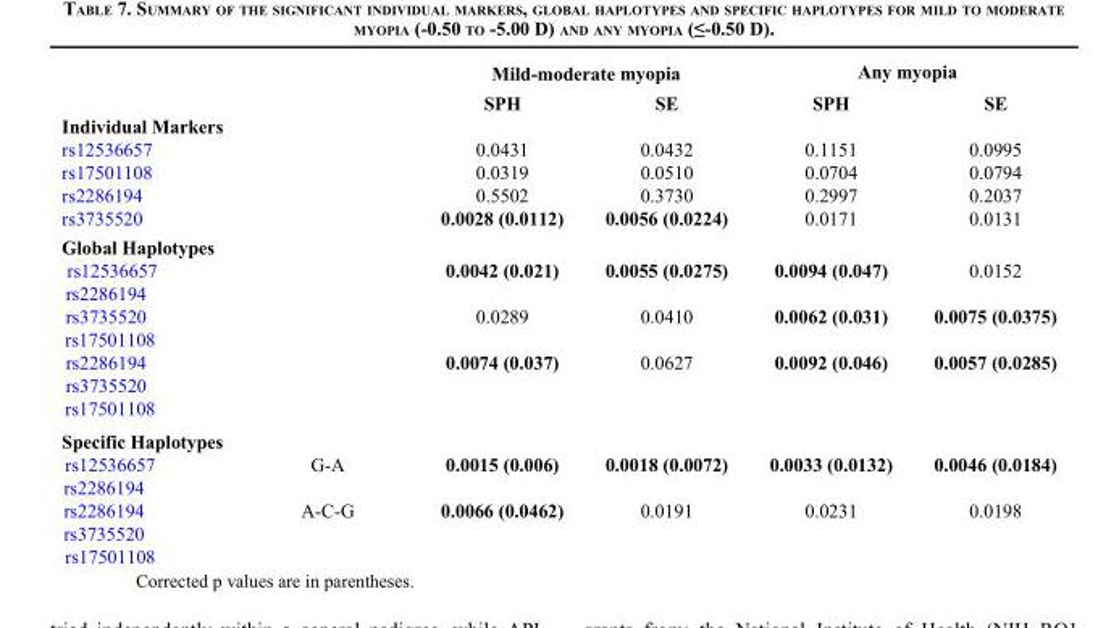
<table><thead><tr><td rowspan="2"></td><td rowspan="2"></td><td colspan="2">Mild-moderate myopia</td><td colspan="2">Any myopia</td></tr><tr><td>SPH</td><td>SE</td><td>SPH</td><td>SE</td></tr></thead><tbody><tr><td colspan="6">Individual Markers</td></tr><tr><td>rs12536657</td><td></td><td>0.0431</td><td>0.0432</td><td>0.1151</td><td>0.0995</td></tr><tr><td>rs17501108</td><td></td><td>0.0319</td><td>0.0510</td><td>0.0704</td><td>0.0794</td></tr><tr><td>rs2286194</td><td></td><td>0.5502</td><td>0.3730</td><td>0.2997</td><td>0.2037</td></tr><tr><td>rs3735520</td><td></td><td>0.0028 (0.0112)</td><td>0.0056 (0.0224)</td><td>0.0171</td><td>0.0131</td></tr><tr><td colspan="6">Global Haplotypes</td></tr><tr><td>rs12536657 rs2286194</td><td></td><td>0.0042 (0.021)</td><td>0.0055 (0.0275)</td><td>0.0094 (0.047)</td><td>0.0152</td></tr><tr><td>rs3735520 rs17501108</td><td></td><td>0.0289</td><td>0.0410</td><td>0.0062 (0.031)</td><td>0.0075 (0.0375)</td></tr><tr><td>rs2286194 rs3735520 rs17501108</td><td></td><td>0.0074 (0.037)</td><td>0.0627</td><td>0.0092 (0.046)</td><td>0.0057 (0.0285)</td></tr><tr><td colspan="6">Specific Haplotypes</td></tr><tr><td>rs12536657 rs2286194</td><td>G-A</td><td>0.0015 (0.006)</td><td>0.0018 (0.0072)</td><td>0.0033 (0.0132)</td><td>0.0046 (0.0184)</td></tr><tr><td>rs2286194 rs3735520 rs17501108</td><td>A-C-G</td><td>0.0066 (0.0462)</td><td>0.0191</td><td>0.0231</td><td>0.0198</td></tr></tbody></table>